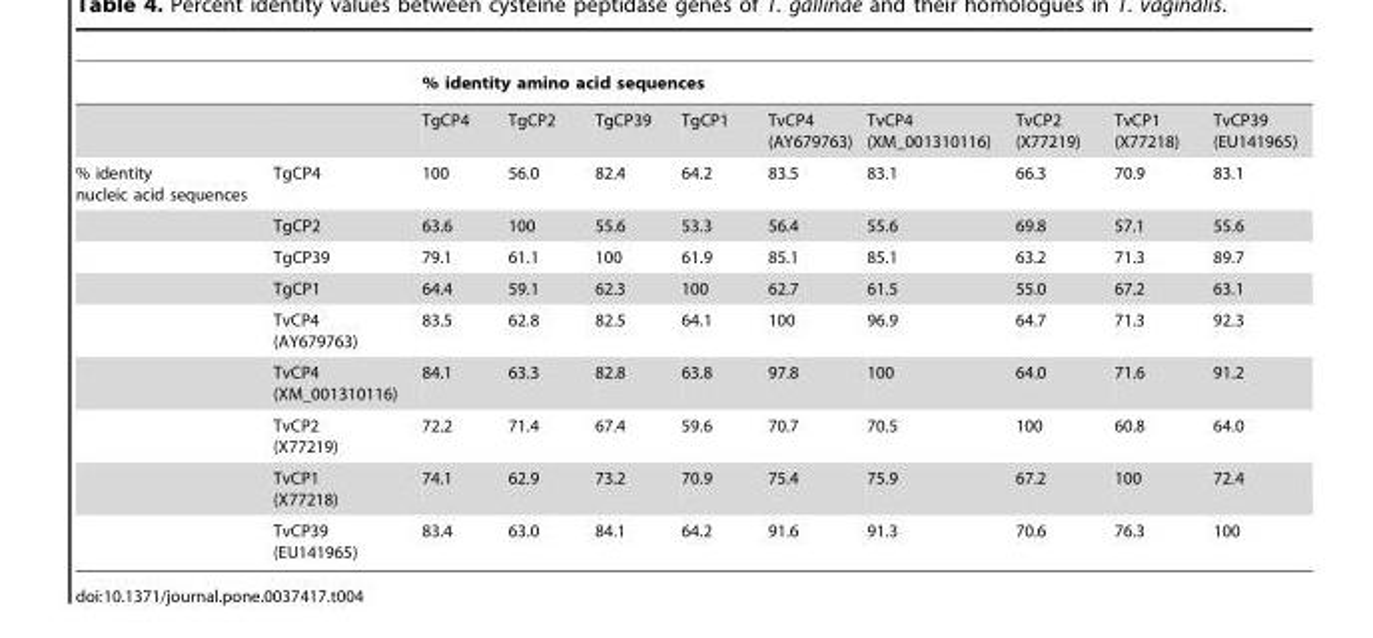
<table><thead><tr><td rowspan="2"></td><td rowspan="2"></td><td colspan="9">% identity amino acid sequences</td></tr><tr><td>TgCP4</td><td>TgCP2</td><td>TgCP39</td><td>TgCP1</td><td>TvCP4 (AY679763)</td><td>TvCP4 (XM_001310116)</td><td>TvCP2 (X77219)</td><td>TvCP1 (X77218)</td><td>TvCP39 (EU141965)</td></tr></thead><tbody><tr><td rowspan="9">% identity nucleic acid sequences</td><td>TgCP4</td><td>100</td><td>56.0</td><td>82.4</td><td>64.2</td><td>83.5</td><td>83.1</td><td>66.3</td><td>70.9</td><td>83.1</td></tr><tr><td>TgCP2</td><td>63.6</td><td>100</td><td>55.6</td><td>53.3</td><td>56.4</td><td>55.6</td><td>69.8</td><td>57.1</td><td>55.6</td></tr><tr><td>TgCP39</td><td>79.1</td><td>61.1</td><td>100</td><td>61.9</td><td>85.1</td><td>85.1</td><td>63.2</td><td>71.3</td><td>89.7</td></tr><tr><td>TgCP1</td><td>64.4</td><td>59.1</td><td>62.3</td><td>100</td><td>62.7</td><td>61.5</td><td>55.0</td><td>67.2</td><td>63.1</td></tr><tr><td>TvCP4 (AY679763)</td><td>83.5</td><td>62.8</td><td>82.5</td><td>64.1</td><td>100</td><td>96.9</td><td>64.7</td><td>71.3</td><td>92.3</td></tr><tr><td>TvCP4 (XM_001310116)</td><td>84.1</td><td>63.3</td><td>82.8</td><td>63.8</td><td>97.8</td><td>100</td><td>64.0</td><td>71.6</td><td>91.2</td></tr><tr><td>TvCP2 (X77219)</td><td>72.2</td><td>71.4</td><td>67.4</td><td>59.6</td><td>70.7</td><td>70.5</td><td>100</td><td>60.8</td><td>64.0</td></tr><tr><td>TvCP1 (X77218)</td><td>74.1</td><td>62.9</td><td>73.2</td><td>70.9</td><td>75.4</td><td>75.9</td><td>67.2</td><td>100</td><td>72.4</td></tr><tr><td>TvCP39 (EU141965)</td><td>83.4</td><td>63.0</td><td>84.1</td><td>64.2</td><td>91.6</td><td>91.3</td><td>70.6</td><td>76.3</td><td>100</td></tr></tbody></table>